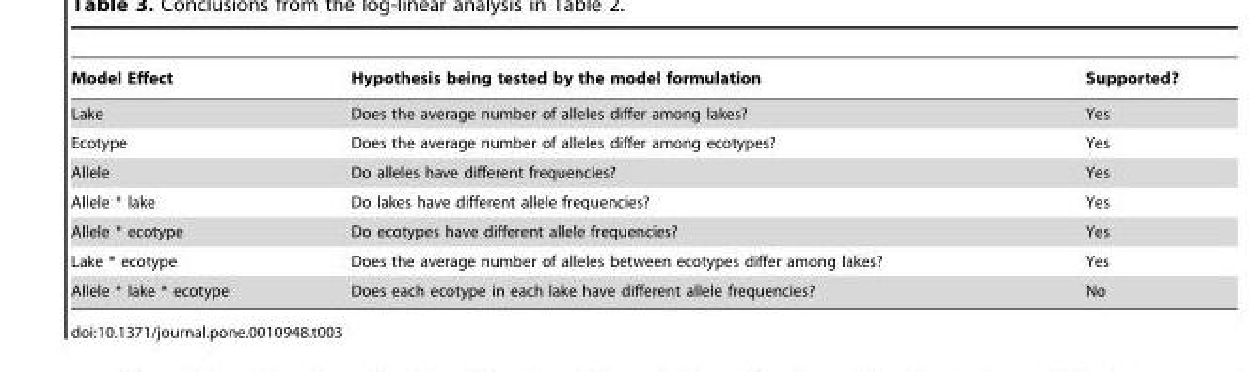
<table><thead><tr><td>Model Effect</td><td>Hypothesis being tested by the model formulation</td><td>Supported?</td></tr></thead><tbody><tr><td>Lake</td><td>Does the average number of alleles differ among lakes?</td><td>Yes</td></tr><tr><td>Ecotype</td><td>Does the average number of alleles differ among ecotypes?</td><td>Yes</td></tr><tr><td>Allele</td><td>Do alleles have different frequencies?</td><td>Yes</td></tr><tr><td>Allele * lake</td><td>Do lakes have different allele frequencies?</td><td>Yes</td></tr><tr><td>Allele * ecotype</td><td>Do ecotypes have different allele frequencies?</td><td>Yes</td></tr><tr><td>Lake * ecotype</td><td>Does the average number of alleles between ecotypes differ among lakes?</td><td>Yes</td></tr><tr><td>Allele * lake * ecotype</td><td>Does each ecotype in each lake have different allele frequencies?</td><td>No</td></tr></tbody></table>